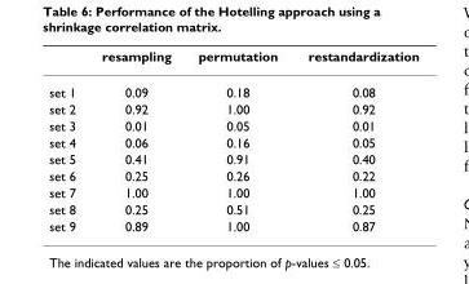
<table><thead><tr><td></td><td>resampling</td><td>permutation</td><td>restandardization</td></tr></thead><tbody><tr><td>set 1</td><td>0.09</td><td>0.18</td><td>0.08</td></tr><tr><td>set 2</td><td>0.92</td><td>1.00</td><td>0.92</td></tr><tr><td>set 3</td><td>0.01</td><td>0.05</td><td>0.01</td></tr><tr><td>set 4</td><td>0.06</td><td>0.16</td><td>0.05</td></tr><tr><td>set 5</td><td>0.41</td><td>0.91</td><td>0.40</td></tr><tr><td>set 6</td><td>0.25</td><td>0.26</td><td>0.22</td></tr><tr><td>set 7</td><td>1.00</td><td>1.00</td><td>1.00</td></tr><tr><td>set 8</td><td>0.25</td><td>0.51</td><td>0.25</td></tr><tr><td>set 9</td><td>0.89</td><td>1.00</td><td>0.87</td></tr></tbody></table>